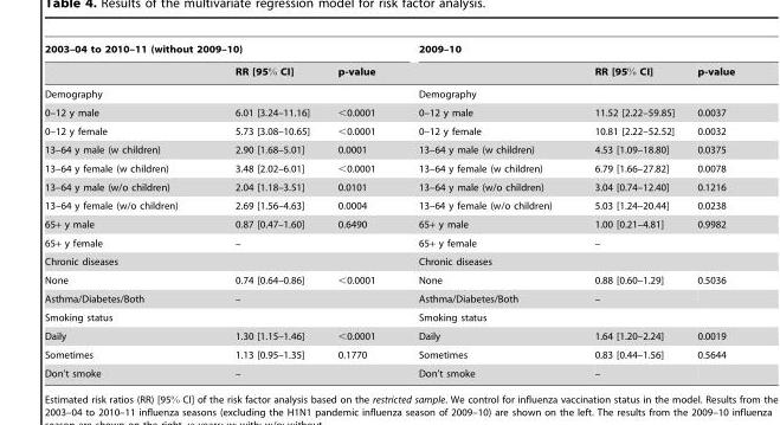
<table><thead><tr><td colspan="3">2003–04 to 2010–11 (without 2009–10)</td><td colspan="3">2009–10</td></tr><tr><td></td><td>RR [95% CI]</td><td>p-value</td><td></td><td>RR [95% CI]</td><td>p-value</td></tr></thead><tbody><tr><td colspan="3">Demography</td><td colspan="3">Demography</td></tr><tr><td>0–12 y male</td><td>6.01 [3.24–11.16]</td><td>&lt;0.0001</td><td>0–12 y male</td><td>11.52 [2.22–59.85]</td><td>0.0037</td></tr><tr><td>0–12 y female</td><td>5.73 [3.08–10.65]</td><td>&lt;0.0001</td><td>0–12 y female</td><td>10.81 [2.22–52.52]</td><td>0.0032</td></tr><tr><td>13–64 y male (w children)</td><td>2.90 [1.68–5.01]</td><td>0.0001</td><td>13–64 y male (w children)</td><td>4.53 [1.09–18.80]</td><td>0.0375</td></tr><tr><td>13–64 y female (w children)</td><td>3.48 [2.02–6.01]</td><td>&lt;0.0001</td><td>13–64 y female (w children)</td><td>6.79 [1.66–27.82]</td><td>0.0078</td></tr><tr><td>13–64 y male (w/o children)</td><td>2.04 [1.18–3.51]</td><td>0.0101</td><td>13–64 y male (w/o children)</td><td>3.04 [0.74–12.40]</td><td>0.1216</td></tr><tr><td>13–64 y female (w/o children)</td><td>2.69 [1.56–4.63]</td><td>0.0004</td><td>13–64 y female (w/o children)</td><td>5.03 [1.24–20.44]</td><td>0.0238</td></tr><tr><td>65+ y male</td><td>0.87 [0.47–1.60]</td><td>0.6490</td><td>65+ y male</td><td>1.00 [0.21–4.81]</td><td>0.9982</td></tr><tr><td>65+ y female</td><td>–</td><td></td><td>65+ y female</td><td>–</td><td></td></tr><tr><td colspan="3">Chronic diseases</td><td colspan="3">Chronic diseases</td></tr><tr><td>None</td><td>0.74 [0.64–0.86]</td><td>&lt;0.0001</td><td>None</td><td>0.88 [0.60–1.29]</td><td>0.5036</td></tr><tr><td>Asthma/Diabetes/Both</td><td>–</td><td></td><td>Asthma/Diabetes/Both</td><td>–</td><td></td></tr><tr><td colspan="3">Smoking status</td><td colspan="3">Smoking status</td></tr><tr><td>Daily</td><td>1.30 [1.15–1.46]</td><td>&lt;0.0001</td><td>Daily</td><td>1.64 [1.20–2.24]</td><td>0.0019</td></tr><tr><td>Sometimes</td><td>1.13 [0.95–1.35]</td><td>0.1770</td><td>Sometimes</td><td>0.83 [0.44–1.56]</td><td>0.5644</td></tr><tr><td>Don’t smoke</td><td>–</td><td></td><td>Don’t smoke</td><td>–</td><td></td></tr></tbody></table>